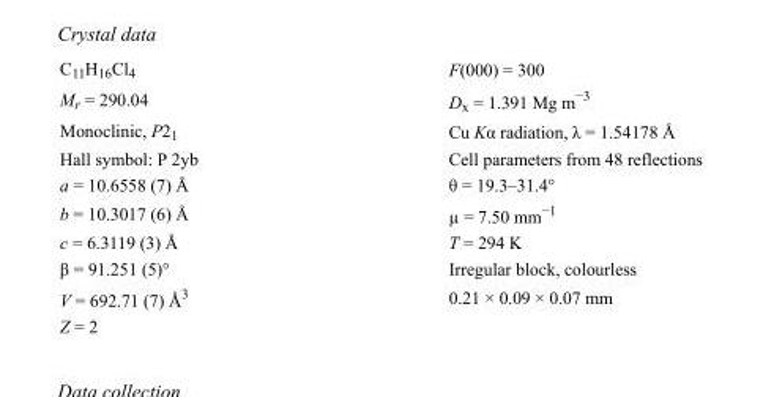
<table><tbody><tr><td>C<sub>11</sub>H<sub>16</sub>Cl<sub>4</sub></td><td>F(000) = 300</td></tr><tr><td>M<sub>r</sub> = 290.04</td><td>D<sub>x</sub> = 1.391 Mg m<sup>−3</sup></td></tr><tr><td>Monoclinic, P2<sub>1</sub></td><td>Cu Kα radiation, λ = 1.54178 Å</td></tr><tr><td>Hall symbol: P 2yb</td><td>Cell parameters from 48 reflections</td></tr><tr><td>a = 10.6558 (7) Å</td><td>θ = 19.3–31.4°</td></tr><tr><td>b = 10.3017 (6) Å</td><td>µ = 7.50 mm<sup>−1</sup></td></tr><tr><td>c = 6.3119 (3) Å</td><td>T = 294 K</td></tr><tr><td>β = 91.251 (5)°</td><td>Irregular block, colourless</td></tr><tr><td>V = 692.71 (7) Å<sup>3</sup></td><td>0.21 × 0.09 × 0.07 mm</td></tr><tr><td>Z = 2</td><td></td></tr></tbody></table>